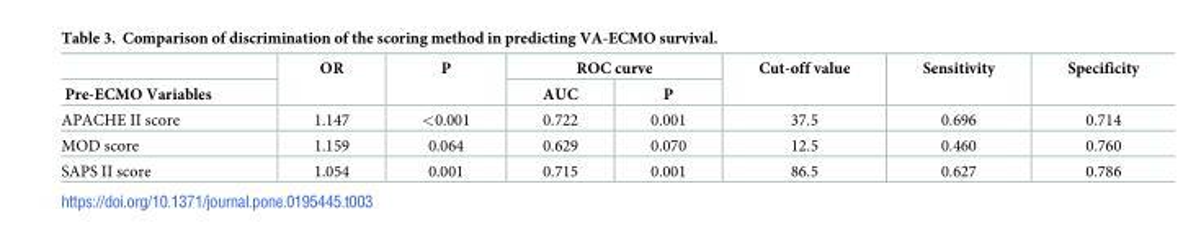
<table><thead><tr><td rowspan="2">Pre-ECMO Variables</td><td rowspan="2">OR</td><td rowspan="2">P</td><td colspan="2">ROC curve</td><td rowspan="2">Cut-off value</td><td rowspan="2">Sensitivity</td><td rowspan="2">Specificity</td></tr><tr><td>AUC</td><td>P</td></tr></thead><tbody><tr><td>APACHE II score</td><td>1.147</td><td>&lt;0.001</td><td>0.722</td><td>0.001</td><td>37.5</td><td>0.696</td><td>0.714</td></tr><tr><td>MOD score</td><td>1.159</td><td>0.064</td><td>0.629</td><td>0.070</td><td>12.5</td><td>0.460</td><td>0.760</td></tr><tr><td>SAPS II score</td><td>1.054</td><td>0.001</td><td>0.715</td><td>0.001</td><td>86.5</td><td>0.627</td><td>0.786</td></tr></tbody></table>